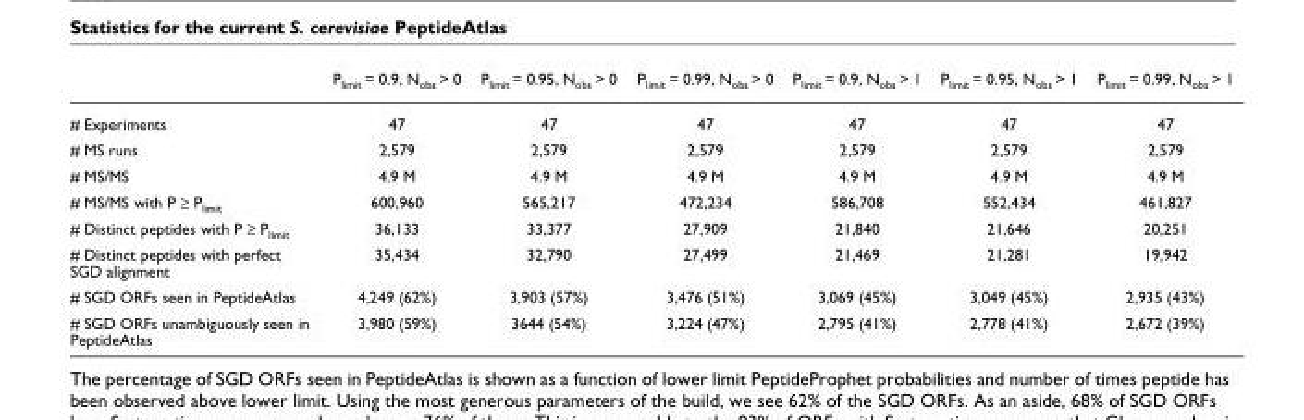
<table><thead><tr><td></td><td>Plimit = 0.9, Nobs &gt; 0</td><td>Plimit = 0.95, Nobs &gt; 0</td><td>Plimit = 0.99, Nobs &gt; 0</td><td>Plimit = 0.9, Nobs &gt; 1</td><td>Plimit = 0.95, Nobs &gt; 1</td><td>Plimit = 0.99, Nobs &gt; 1</td></tr></thead><tbody><tr><td># Experiments</td><td>47</td><td>47</td><td>47</td><td>47</td><td>47</td><td>47</td></tr><tr><td># MS runs</td><td>2,579</td><td>2,579</td><td>2,579</td><td>2,579</td><td>2,579</td><td>2,579</td></tr><tr><td># MS/MS</td><td>4.9 M</td><td>4.9 M</td><td>4.9 M</td><td>4.9 M</td><td>4.9 M</td><td>4.9 M</td></tr><tr><td># MS/MS with P ≥ Plimit</td><td>600,960</td><td>565,217</td><td>472,234</td><td>586,708</td><td>552,434</td><td>461,827</td></tr><tr><td># Distinct peptides with P ≥ Plimit</td><td>36,133</td><td>33,377</td><td>27,909</td><td>21,840</td><td>21,646</td><td>20,251</td></tr><tr><td># Distinct peptides with perfect SGD alignment</td><td>35,434</td><td>32,790</td><td>27,499</td><td>21,469</td><td>21,281</td><td>19,942</td></tr><tr><td># SGD ORFs seen in PeptideAtlas</td><td>4,249 (62%)</td><td>3,903 (57%)</td><td>3,476 (51%)</td><td>3,069 (45%)</td><td>3,049 (45%)</td><td>2,935 (43%)</td></tr><tr><td># SGD ORFs unambiguously seen in PeptideAtlas</td><td>3,980 (59%)</td><td>3644 (54%)</td><td>3,224 (47%)</td><td>2,795 (41%)</td><td>2,778 (41%)</td><td>2,672 (39%)</td></tr></tbody></table>